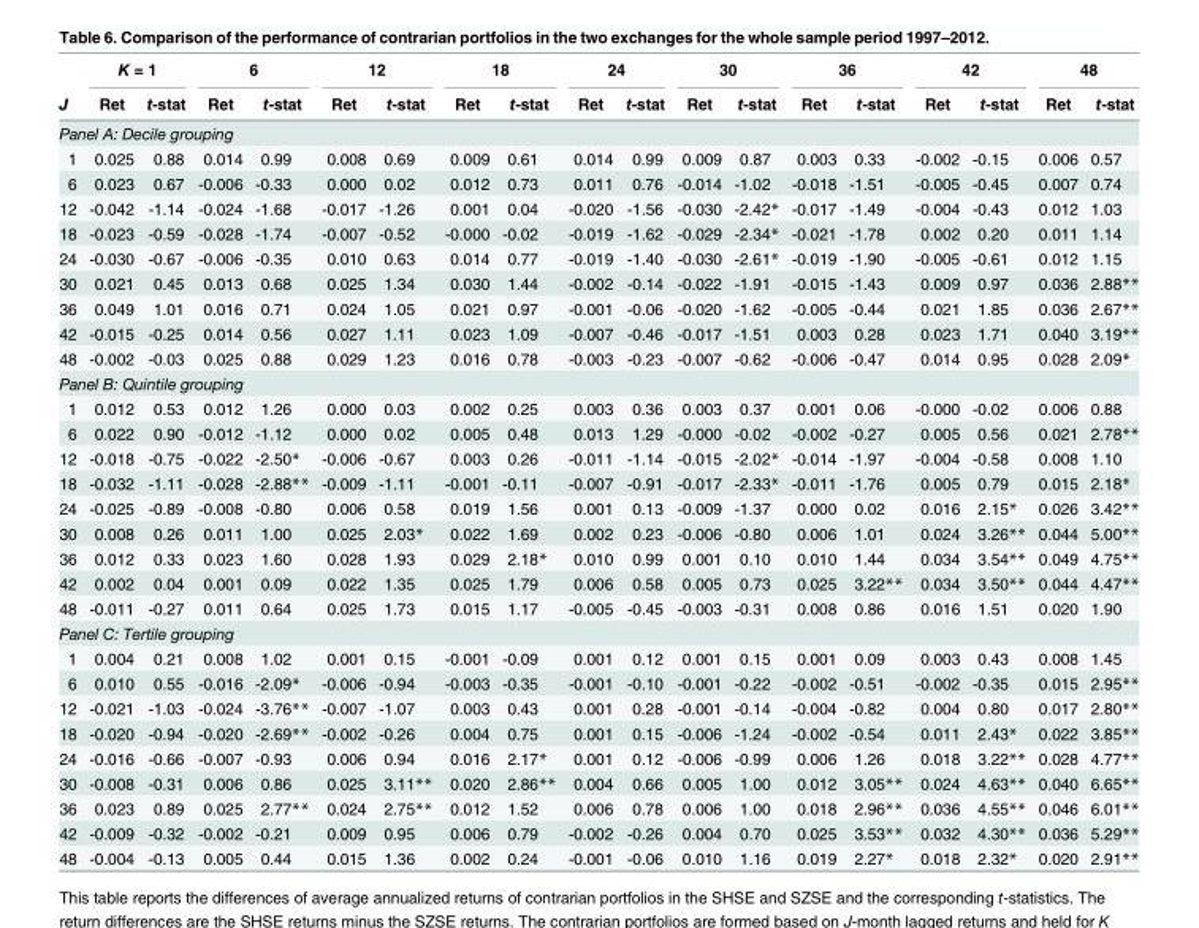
<table><thead><tr><td rowspan="2">J</td><td colspan="2">K = 1</td><td colspan="2">6</td><td colspan="2">12</td><td colspan="2">18</td><td colspan="2">24</td><td colspan="2">30</td><td colspan="2">36</td><td colspan="2">42</td><td colspan="2">48</td></tr><tr><td>Ret</td><td>t-stat</td><td>Ret</td><td>t-stat</td><td>Ret</td><td>t-stat</td><td>Ret</td><td>t-stat</td><td>Ret</td><td>t-stat</td><td>Ret</td><td>t-stat</td><td>Ret</td><td>t-stat</td><td>Ret</td><td>t-stat</td><td>Ret</td><td>t-stat</td></tr></thead><tbody><tr><td colspan="19">Panel A: Decile grouping</td></tr><tr><td>1</td><td>0.025</td><td>0.88</td><td>0.014</td><td>0.99</td><td>0.008</td><td>0.69</td><td>0.009</td><td>0.61</td><td>0.014</td><td>0.99</td><td>0.009</td><td>0.87</td><td>0.003</td><td>0.33</td><td>-0.002</td><td>-0.15</td><td>0.006</td><td>0.57</td></tr><tr><td>6</td><td>0.023</td><td>0.67</td><td>-0.006</td><td>-0.33</td><td>0.000</td><td>0.02</td><td>0.012</td><td>0.73</td><td>0.011</td><td>0.76</td><td>-0.014</td><td>-1.02</td><td>-0.018</td><td>-1.51</td><td>-0.005</td><td>-0.45</td><td>0.007</td><td>0.74</td></tr><tr><td>12</td><td>-0.042</td><td>-1.14</td><td>-0.024</td><td>-1.68</td><td>-0.017</td><td>-1.26</td><td>0.001</td><td>0.04</td><td>-0.020</td><td>-1.56</td><td>-0.030</td><td>-2.42*</td><td>-0.017</td><td>-1.49</td><td>-0.004</td><td>-0.43</td><td>0.012</td><td>1.03</td></tr><tr><td>18</td><td>-0.023</td><td>-0.59</td><td>-0.028</td><td>-1.74</td><td>-0.007</td><td>-0.52</td><td>-0.000</td><td>-0.02</td><td>-0.019</td><td>-1.62</td><td>-0.029</td><td>-2.34*</td><td>-0.021</td><td>-1.78</td><td>0.002</td><td>0.20</td><td>0.011</td><td>1.14</td></tr><tr><td>24</td><td>-0.030</td><td>-0.67</td><td>-0.006</td><td>-0.35</td><td>0.010</td><td>0.63</td><td>0.014</td><td>0.77</td><td>-0.019</td><td>-1.40</td><td>-0.030</td><td>-2.61*</td><td>-0.019</td><td>-1.90</td><td>-0.005</td><td>-0.61</td><td>0.012</td><td>1.15</td></tr><tr><td>30</td><td>0.021</td><td>0.45</td><td>0.013</td><td>0.68</td><td>0.025</td><td>1.34</td><td>0.030</td><td>1.44</td><td>-0.002</td><td>-0.14</td><td>-0.022</td><td>-1.91</td><td>-0.015</td><td>-1.43</td><td>0.009</td><td>0.97</td><td>0.036</td><td>2.88**</td></tr><tr><td>36</td><td>0.049</td><td>1.01</td><td>0.016</td><td>0.71</td><td>0.024</td><td>1.05</td><td>0.021</td><td>0.97</td><td>-0.001</td><td>-0.06</td><td>-0.020</td><td>-1.62</td><td>-0.005</td><td>-0.44</td><td>0.021</td><td>1.85</td><td>0.036</td><td>2.67**</td></tr><tr><td>42</td><td>-0.015</td><td>-0.25</td><td>0.014</td><td>0.56</td><td>0.027</td><td>1.11</td><td>0.023</td><td>1.09</td><td>-0.007</td><td>-0.46</td><td>-0.017</td><td>-1.51</td><td>0.003</td><td>0.28</td><td>0.023</td><td>1.71</td><td>0.040</td><td>3.19**</td></tr><tr><td>48</td><td>-0.002</td><td>-0.03</td><td>0.025</td><td>0.88</td><td>0.029</td><td>1.23</td><td>0.016</td><td>0.78</td><td>-0.003</td><td>-0.23</td><td>-0.007</td><td>-0.62</td><td>-0.006</td><td>-0.47</td><td>0.014</td><td>0.95</td><td>0.028</td><td>2.09*</td></tr><tr><td colspan="19">Panel B: Quintile grouping</td></tr><tr><td>1</td><td>0.012</td><td>0.53</td><td>0.012</td><td>1.26</td><td>0.000</td><td>0.03</td><td>0.002</td><td>0.25</td><td>0.003</td><td>0.36</td><td>0.003</td><td>0.37</td><td>0.001</td><td>0.06</td><td>-0.000</td><td>-0.02</td><td>0.006</td><td>0.88</td></tr><tr><td>6</td><td>0.022</td><td>0.90</td><td>-0.012</td><td>-1.12</td><td>0.000</td><td>0.02</td><td>0.005</td><td>0.48</td><td>0.013</td><td>1.29</td><td>-0.000</td><td>-0.02</td><td>-0.002</td><td>-0.27</td><td>0.005</td><td>0.56</td><td>0.021</td><td>2.78**</td></tr><tr><td>12</td><td>-0.018</td><td>-0.75</td><td>-0.022</td><td>-2.50*</td><td>-0.006</td><td>-0.67</td><td>0.003</td><td>0.26</td><td>-0.011</td><td>-1.14</td><td>-0.015</td><td>-2.02*</td><td>-0.014</td><td>-1.97</td><td>-0.004</td><td>-0.58</td><td>0.008</td><td>1.10</td></tr><tr><td>18</td><td>-0.032</td><td>-1.11</td><td>-0.028</td><td>-2.88**</td><td>-0.009</td><td>-1.11</td><td>-0.001</td><td>-0.11</td><td>-0.007</td><td>-0.91</td><td>-0.017</td><td>-2.33*</td><td>-0.011</td><td>-1.76</td><td>0.005</td><td>0.79</td><td>0.015</td><td>2.18*</td></tr><tr><td>24</td><td>-0.025</td><td>-0.89</td><td>-0.008</td><td>-0.80</td><td>0.006</td><td>0.58</td><td>0.019</td><td>1.56</td><td>0.001</td><td>0.13</td><td>-0.009</td><td>-1.37</td><td>0.000</td><td>0.02</td><td>0.016</td><td>2.15*</td><td>0.026</td><td>3.42**</td></tr><tr><td>30</td><td>0.008</td><td>0.26</td><td>0.011</td><td>1.00</td><td>0.025</td><td>2.03*</td><td>0.022</td><td>1.69</td><td>0.002</td><td>0.23</td><td>-0.006</td><td>-0.80</td><td>0.006</td><td>1.01</td><td>0.024</td><td>3.26**</td><td>0.044</td><td>5.00**</td></tr><tr><td>36</td><td>0.012</td><td>0.33</td><td>0.023</td><td>1.60</td><td>0.028</td><td>1.93</td><td>0.029</td><td>2.18*</td><td>0.010</td><td>0.99</td><td>0.001</td><td>0.10</td><td>0.010</td><td>1.44</td><td>0.034</td><td>3.54**</td><td>0.049</td><td>4.75**</td></tr><tr><td>42</td><td>0.002</td><td>0.04</td><td>0.001</td><td>0.09</td><td>0.022</td><td>1.35</td><td>0.025</td><td>1.79</td><td>0.006</td><td>0.58</td><td>0.005</td><td>0.73</td><td>0.025</td><td>3.22**</td><td>0.034</td><td>3.50**</td><td>0.044</td><td>4.47**</td></tr><tr><td>48</td><td>-0.011</td><td>-0.27</td><td>0.011</td><td>0.64</td><td>0.025</td><td>1.73</td><td>0.015</td><td>1.17</td><td>-0.005</td><td>-0.45</td><td>-0.003</td><td>-0.31</td><td>0.008</td><td>0.86</td><td>0.016</td><td>1.51</td><td>0.020</td><td>1.90</td></tr><tr><td colspan="19">Panel C: Tertile grouping</td></tr><tr><td>1</td><td>0.004</td><td>0.21</td><td>0.008</td><td>1.02</td><td>0.001</td><td>0.15</td><td>-0.001</td><td>-0.09</td><td>0.001</td><td>0.12</td><td>0.001</td><td>0.15</td><td>0.001</td><td>0.09</td><td>0.003</td><td>0.43</td><td>0.008</td><td>1.45</td></tr><tr><td>6</td><td>0.010</td><td>0.55</td><td>-0.016</td><td>-2.09*</td><td>-0.006</td><td>-0.94</td><td>-0.003</td><td>-0.35</td><td>-0.001</td><td>-0.10</td><td>-0.001</td><td>-0.22</td><td>-0.002</td><td>-0.51</td><td>-0.002</td><td>-0.35</td><td>0.015</td><td>2.95**</td></tr><tr><td>12</td><td>-0.021</td><td>-1.03</td><td>-0.024</td><td>-3.76**</td><td>-0.007</td><td>-1.07</td><td>0.003</td><td>0.43</td><td>0.001</td><td>0.28</td><td>-0.001</td><td>-0.14</td><td>-0.004</td><td>-0.82</td><td>0.004</td><td>0.80</td><td>0.017</td><td>2.80**</td></tr><tr><td>18</td><td>-0.020</td><td>-0.94</td><td>-0.020</td><td>-2.69**</td><td>-0.002</td><td>-0.26</td><td>0.004</td><td>0.75</td><td>0.001</td><td>0.15</td><td>-0.006</td><td>-1.24</td><td>-0.002</td><td>-0.54</td><td>0.011</td><td>2.43*</td><td>0.022</td><td>3.85**</td></tr><tr><td>24</td><td>-0.016</td><td>-0.66</td><td>-0.007</td><td>-0.93</td><td>0.006</td><td>0.94</td><td>0.016</td><td>2.17*</td><td>0.001</td><td>0.12</td><td>-0.006</td><td>-0.99</td><td>0.006</td><td>1.26</td><td>0.018</td><td>3.22**</td><td>0.028</td><td>4.77**</td></tr><tr><td>30</td><td>-0.008</td><td>-0.31</td><td>0.006</td><td>0.86</td><td>0.025</td><td>3.11**</td><td>0.020</td><td>2.86**</td><td>0.004</td><td>0.66</td><td>0.005</td><td>1.00</td><td>0.012</td><td>3.05**</td><td>0.024</td><td>4.63**</td><td>0.040</td><td>6.65**</td></tr><tr><td>36</td><td>0.023</td><td>0.89</td><td>0.025</td><td>2.77**</td><td>0.024</td><td>2.75**</td><td>0.012</td><td>1.52</td><td>0.006</td><td>0.78</td><td>0.006</td><td>1.00</td><td>0.018</td><td>2.96**</td><td>0.036</td><td>4.55**</td><td>0.046</td><td>6.01**</td></tr><tr><td>42</td><td>-0.009</td><td>-0.32</td><td>-0.002</td><td>-0.21</td><td>0.009</td><td>0.95</td><td>0.006</td><td>0.79</td><td>-0.002</td><td>-0.26</td><td>0.004</td><td>0.70</td><td>0.025</td><td>3.53**</td><td>0.032</td><td>4.30**</td><td>0.036</td><td>5.29**</td></tr><tr><td>48</td><td>-0.004</td><td>-0.13</td><td>0.005</td><td>0.44</td><td>0.015</td><td>1.36</td><td>0.002</td><td>0.24</td><td>-0.001</td><td>-0.06</td><td>0.010</td><td>1.16</td><td>0.019</td><td>2.27*</td><td>0.018</td><td>2.32*</td><td>0.020</td><td>2.91**</td></tr></tbody></table>